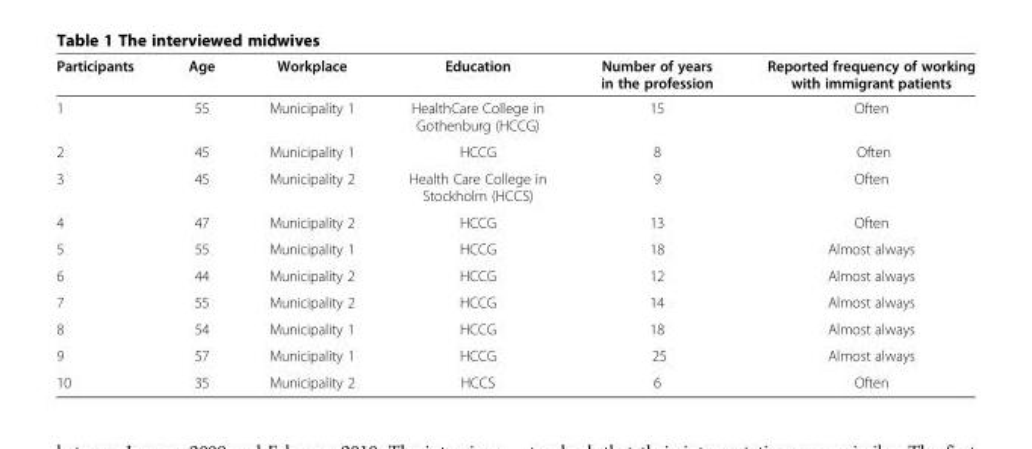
<table><thead><tr><td>Participants</td><td>Age</td><td>Workplace</td><td>Education</td><td>Number of years in the profession</td><td>Reported frequency of working with immigrant patients</td></tr></thead><tbody><tr><td>1</td><td>55</td><td>Municipality 1</td><td>HealthCare College in Gothenburg (HCCG)</td><td>15</td><td>Often</td></tr><tr><td>2</td><td>45</td><td>Municipality 1</td><td>HCCG</td><td>8</td><td>Often</td></tr><tr><td>3</td><td>45</td><td>Municipality 2</td><td>Health Care College in Stockholm (HCCS)</td><td>9</td><td>Often</td></tr><tr><td>4</td><td>47</td><td>Municipality 2</td><td>HCCG</td><td>13</td><td>Often</td></tr><tr><td>5</td><td>55</td><td>Municipality 1</td><td>HCCG</td><td>18</td><td>Almost always</td></tr><tr><td>6</td><td>44</td><td>Municipality 2</td><td>HCCG</td><td>12</td><td>Almost always</td></tr><tr><td>7</td><td>55</td><td>Municipality 2</td><td>HCCG</td><td>14</td><td>Almost always</td></tr><tr><td>8</td><td>54</td><td>Municipality 1</td><td>HCCG</td><td>18</td><td>Almost always</td></tr><tr><td>9</td><td>57</td><td>Municipality 1</td><td>HCCG</td><td>25</td><td>Almost always</td></tr><tr><td>10</td><td>35</td><td>Municipality 2</td><td>HCCS</td><td>6</td><td>Often</td></tr></tbody></table>